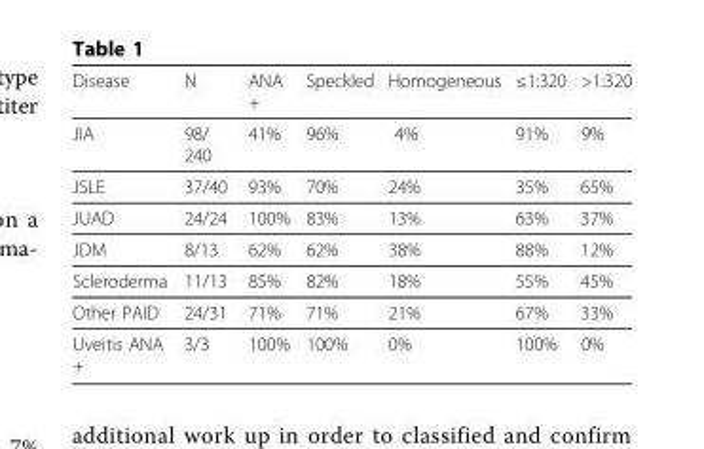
<table><thead><tr><td>Disease</td><td>N</td><td>ANA +</td><td>Speckled</td><td>Homogeneous</td><td>≤1:320</td><td>&gt;1:320</td></tr></thead><tbody><tr><td>JIA</td><td>98/ 240</td><td>41%</td><td>96%</td><td>4%</td><td>91%</td><td>9%</td></tr><tr><td>JSLE</td><td>37/40</td><td>93%</td><td>70%</td><td>24%</td><td>35%</td><td>65%</td></tr><tr><td>JUAD</td><td>24/24</td><td>100%</td><td>83%</td><td>13%</td><td>63%</td><td>37%</td></tr><tr><td>JDM</td><td>8/13</td><td>62%</td><td>62%</td><td>38%</td><td>88%</td><td>12%</td></tr><tr><td>Scleroderma</td><td>11/13</td><td>85%</td><td>82%</td><td>18%</td><td>55%</td><td>45%</td></tr><tr><td>Other PAID</td><td>24/31</td><td>71%</td><td>71%</td><td>21%</td><td>67%</td><td>33%</td></tr><tr><td>Uveitis ANA +</td><td>3/3</td><td>100%</td><td>100%</td><td>0%</td><td>100%</td><td>0%</td></tr></tbody></table>